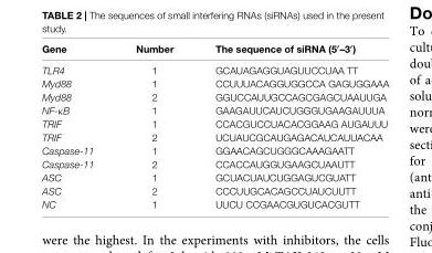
<table><thead><tr><td>Gene</td><td>Number</td><td>The sequence of siRNA (5′–3′)</td></tr></thead><tbody><tr><td>TLR4</td><td>1</td><td>GCAUAGAGGUAGUUCCUAA TT</td></tr><tr><td>Myd88</td><td>1</td><td>CCUUUACAGGUGGCCA GAGUGGAAA</td></tr><tr><td>Myd88</td><td>2</td><td>GGUCCAUUGCCAGCGAGCUAAUUGA</td></tr><tr><td>NF-κB</td><td>1</td><td>GAAGAUUCAUCUGGGUGAAGAUUUA</td></tr><tr><td>TRIF</td><td>1</td><td>CCACGUCCUACACGGAAG AUGAUUU</td></tr><tr><td>TRIF</td><td>2</td><td>UCUAUCGCAUGAGACAUCAUUACAA</td></tr><tr><td>Caspase-11</td><td>1</td><td>GGAACAGCUGGGCAAAGAATT</td></tr><tr><td>Caspase-11</td><td>2</td><td>CCACCAUGGUGAAGCUAAUTT</td></tr><tr><td>ASC</td><td>1</td><td>GCUACUAUCUGGAGUCGUATT</td></tr><tr><td>ASC</td><td>2</td><td>CCCUUGCACAGCCUAUCUUTT</td></tr><tr><td>NC</td><td>1</td><td>UUCU CCGAACGUGUCACGUTT</td></tr></tbody></table>